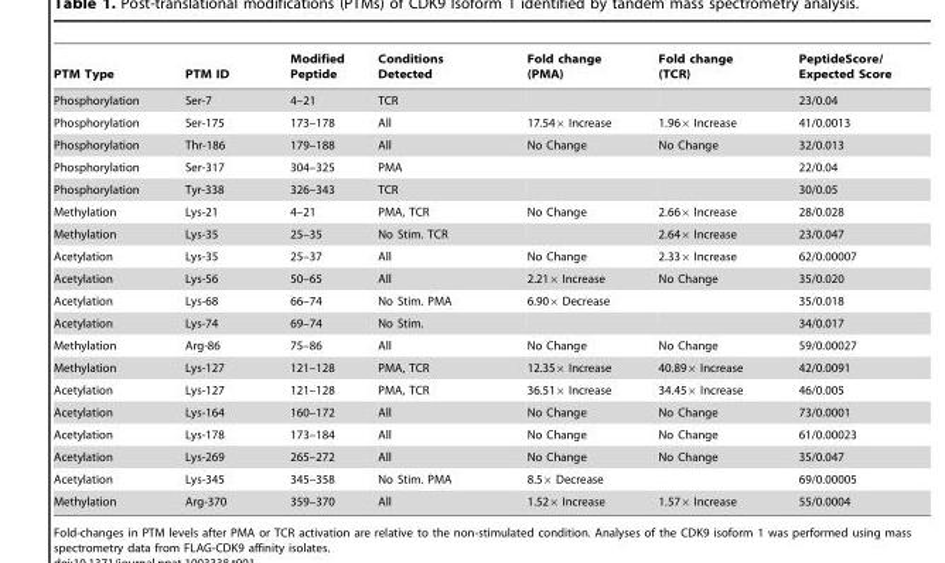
<table><thead><tr><td>PTM Type</td><td>PTM ID</td><td>Modified Peptide</td><td>Conditions Detected</td><td>Fold change (PMA)</td><td>Fold change (TCR)</td><td>PeptideScore/ Expected Score</td></tr></thead><tbody><tr><td>Phosphorylation</td><td>Ser-7</td><td>4–21</td><td>TCR</td><td></td><td></td><td>23/0.04</td></tr><tr><td>Phosphorylation</td><td>Ser-175</td><td>173–178</td><td>All</td><td>17.54× Increase</td><td>1.96× Increase</td><td>41/0.0013</td></tr><tr><td>Phosphorylation</td><td>Thr-186</td><td>179–188</td><td>All</td><td>No Change</td><td>No Change</td><td>32/0.013</td></tr><tr><td>Phosphorylation</td><td>Ser-317</td><td>304–325</td><td>PMA</td><td></td><td></td><td>22/0.04</td></tr><tr><td>Phosphorylation</td><td>Tyr-338</td><td>326–343</td><td>TCR</td><td></td><td></td><td>30/0.05</td></tr><tr><td>Methylation</td><td>Lys-21</td><td>4–21</td><td>PMA, TCR</td><td>No Change</td><td>2.66× Increase</td><td>28/0.028</td></tr><tr><td>Methylation</td><td>Lys-35</td><td>25–35</td><td>No Stim. TCR</td><td></td><td>2.64× Increase</td><td>23/0.047</td></tr><tr><td>Acetylation</td><td>Lys-35</td><td>25–37</td><td>All</td><td>No Change</td><td>2.33× Increase</td><td>62/0.00007</td></tr><tr><td>Acetylation</td><td>Lys-56</td><td>50–65</td><td>All</td><td>2.21× Increase</td><td>No Change</td><td>35/0.020</td></tr><tr><td>Acetylation</td><td>Lys-68</td><td>66–74</td><td>No Stim. PMA</td><td>6.90× Decrease</td><td></td><td>35/0.018</td></tr><tr><td>Acetylation</td><td>Lys-74</td><td>69–74</td><td>No Stim.</td><td></td><td></td><td>34/0.017</td></tr><tr><td>Methylation</td><td>Arg-86</td><td>75–86</td><td>All</td><td>No Change</td><td>No Change</td><td>59/0.00027</td></tr><tr><td>Methylation</td><td>Lys-127</td><td>121–128</td><td>PMA, TCR</td><td>12.35× Increase</td><td>40.89× Increase</td><td>42/0.0091</td></tr><tr><td>Acetylation</td><td>Lys-127</td><td>121–128</td><td>PMA, TCR</td><td>36.51× Increase</td><td>34.45× Increase</td><td>46/0.005</td></tr><tr><td>Acetylation</td><td>Lys-164</td><td>160–172</td><td>All</td><td>No Change</td><td>No Change</td><td>73/0.0001</td></tr><tr><td>Acetylation</td><td>Lys-178</td><td>173–184</td><td>All</td><td>No Change</td><td>No Change</td><td>61/0.00023</td></tr><tr><td>Acetylation</td><td>Lys-269</td><td>265–272</td><td>All</td><td>No Change</td><td>No Change</td><td>35/0.047</td></tr><tr><td>Acetylation</td><td>Lys-345</td><td>345–358</td><td>No Stim. PMA</td><td>8.5× Decrease</td><td></td><td>69/0.00005</td></tr><tr><td>Methylation</td><td>Arg-370</td><td>359–370</td><td>All</td><td>1.52× Increase</td><td>1.57× Increase</td><td>55/0.0004</td></tr></tbody></table>